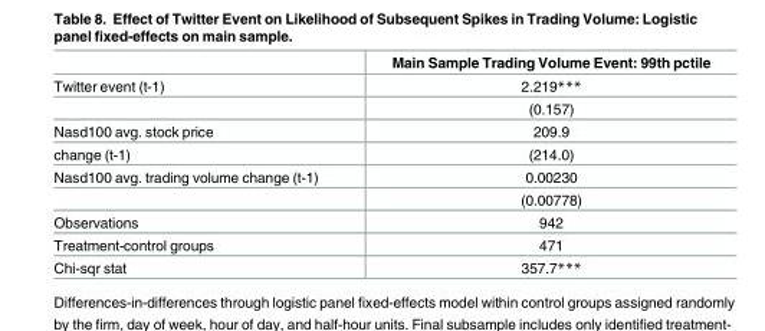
<table><thead><tr><td></td><td>Main Sample Trading Volume Event: 99th pctile</td></tr></thead><tbody><tr><td rowspan="2">Twitter event (t-1)</td><td>2.219***</td></tr><tr><td>(0.157)</td></tr><tr><td>Nasd100 avg. stock price</td><td>209.9</td></tr><tr><td>change (t-1)</td><td>(214.0)</td></tr><tr><td rowspan="2">Nasd100 avg. trading volume change (t-1)</td><td>0.00230</td></tr><tr><td>(0.00778)</td></tr><tr><td>Observations</td><td>942</td></tr><tr><td>Treatment-control groups</td><td>471</td></tr><tr><td>Chi-sqr stat</td><td>357.7***</td></tr></tbody></table>